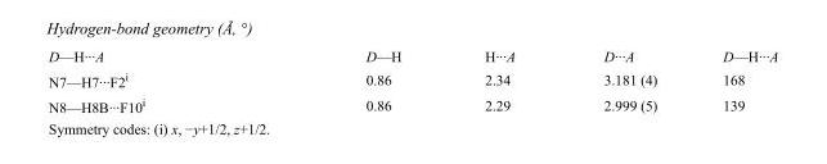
<table><tbody><tr><td>D—H···A</td><td>D—H</td><td>H···A</td><td>D···A</td><td>D—H···A</td></tr><tr><td>N7—H7···F2<sup>i</sup></td><td>0.86</td><td>2.34</td><td>3.181 (4)</td><td>168</td></tr><tr><td>N8—H8B···F10<sup>i</sup></td><td>0.86</td><td>2.29</td><td>2.999 (5)</td><td>139</td></tr></tbody></table>